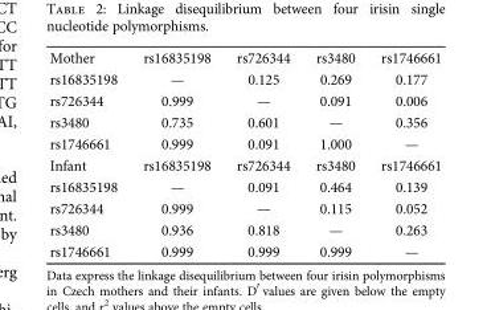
<table><tbody><tr><td>Mother</td><td>rs16835198</td><td>rs726344</td><td>rs3480</td><td>rs1746661</td></tr><tr><td>rs16835198</td><td>—</td><td>0.125</td><td>0.269</td><td>0.177</td></tr><tr><td>rs726344</td><td>0.999</td><td>—</td><td>0.091</td><td>0.006</td></tr><tr><td>rs3480</td><td>0.735</td><td>0.601</td><td>—</td><td>0.356</td></tr><tr><td>rs1746661</td><td>0.999</td><td>0.091</td><td>1.000</td><td>—</td></tr><tr><td>Infant</td><td>rs16835198</td><td>rs726344</td><td>rs3480</td><td>rs1746661</td></tr><tr><td>rs16835198</td><td>—</td><td>0.091</td><td>0.464</td><td>0.139</td></tr><tr><td>rs726344</td><td>0.999</td><td>—</td><td>0.115</td><td>0.052</td></tr><tr><td>rs3480</td><td>0.936</td><td>0.818</td><td>—</td><td>0.263</td></tr><tr><td>rs1746661</td><td>0.999</td><td>0.999</td><td>0.999</td><td>—</td></tr></tbody></table>